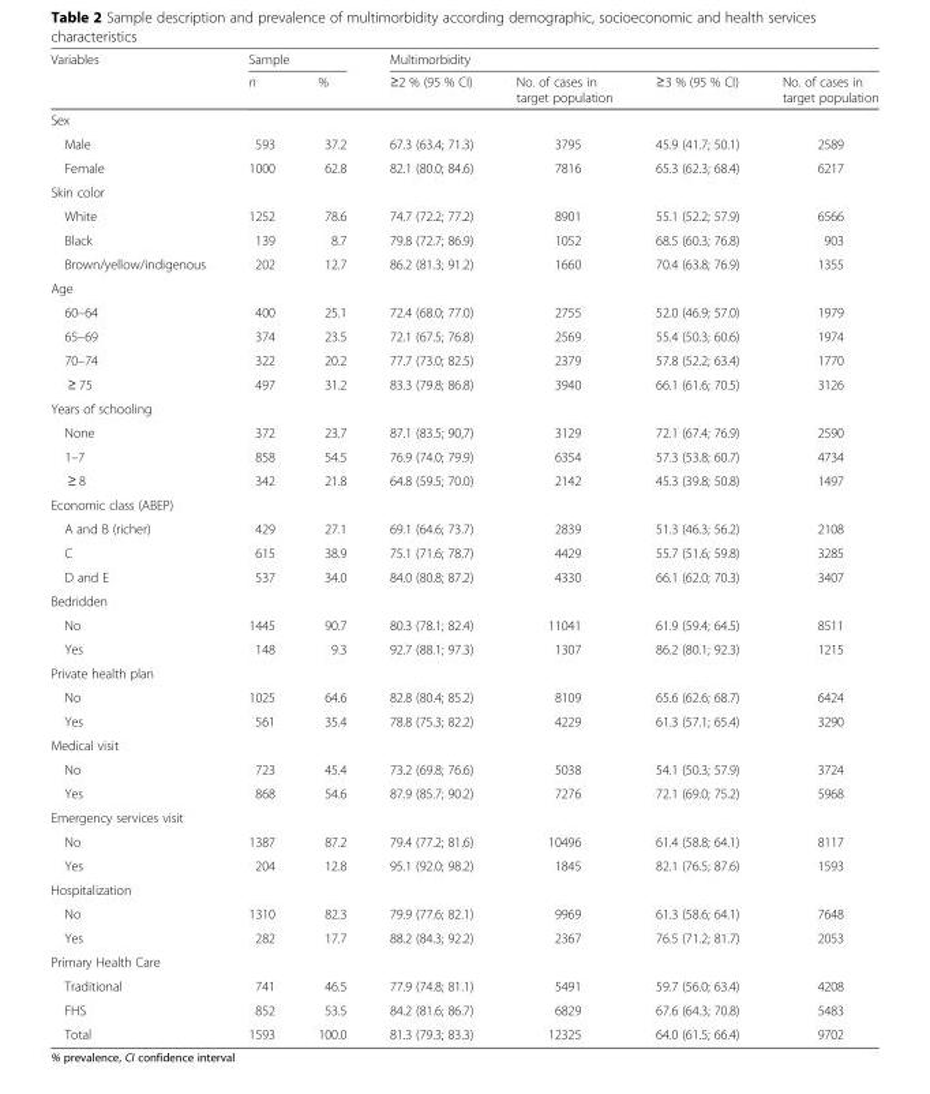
<table><thead><tr><td rowspan="2">Variables</td><td colspan="2">Sample</td><td colspan="4">Multimorbidity</td></tr><tr><td>n</td><td>%</td><td>≥2 % (95 % CI)</td><td>No. of cases in target population</td><td>≥3 % (95 % CI)</td><td>No. of cases in target population</td></tr></thead><tbody><tr><td colspan="7">Sex</td></tr><tr><td>Male</td><td>593</td><td>37.2</td><td>67.3 (63.4; 71.3)</td><td>3795</td><td>45.9 (41.7; 50.1)</td><td>2589</td></tr><tr><td>Female</td><td>1000</td><td>62.8</td><td>82.1 (80.0; 84.6)</td><td>7816</td><td>65.3 (62.3; 68.4)</td><td>6217</td></tr><tr><td colspan="7">Skin color</td></tr><tr><td>White</td><td>1252</td><td>78.6</td><td>74.7 (72.2; 77.2)</td><td>8901</td><td>55.1 (52.2; 57.9)</td><td>6566</td></tr><tr><td>Black</td><td>139</td><td>8.7</td><td>79.8 (72.7; 86.9)</td><td>1052</td><td>68.5 (60.3; 76.8)</td><td>903</td></tr><tr><td>Brown/yellow/indigenous</td><td>202</td><td>12.7</td><td>86.2 (81.3; 91.2)</td><td>1660</td><td>70.4 (63.8; 76.9)</td><td>1355</td></tr><tr><td colspan="7">Age</td></tr><tr><td>60–64</td><td>400</td><td>25.1</td><td>72.4 (68.0; 77.0)</td><td>2755</td><td>52.0 (46.9; 57.0)</td><td>1979</td></tr><tr><td>65–69</td><td>374</td><td>23.5</td><td>72.1 (67.5; 76.8)</td><td>2569</td><td>55.4 (50.3; 60.6)</td><td>1974</td></tr><tr><td>70–74</td><td>322</td><td>20.2</td><td>77.7 (73.0; 82.5)</td><td>2379</td><td>57.8 (52.2; 63.4)</td><td>1770</td></tr><tr><td>≥ 75</td><td>497</td><td>31.2</td><td>83.3 (79.8; 86.8)</td><td>3940</td><td>66.1 (61.6; 70.5)</td><td>3126</td></tr><tr><td colspan="7">Years of schooling</td></tr><tr><td>None</td><td>372</td><td>23.7</td><td>87.1 (83.5; 90,7)</td><td>3129</td><td>72.1 (67.4; 76.9)</td><td>2590</td></tr><tr><td>1–7</td><td>858</td><td>54.5</td><td>76.9 (74.0; 79.9)</td><td>6354</td><td>57.3 (53.8; 60.7)</td><td>4734</td></tr><tr><td>≥ 8</td><td>342</td><td>21.8</td><td>64.8 (59.5; 70.0)</td><td>2142</td><td>45.3 (39.8; 50.8)</td><td>1497</td></tr><tr><td colspan="7">Economic class (ABEP)</td></tr><tr><td>A and B (richer)</td><td>429</td><td>27.1</td><td>69.1 (64.6; 73.7)</td><td>2839</td><td>51.3 (46.3; 56.2)</td><td>2108</td></tr><tr><td>C</td><td>615</td><td>38.9</td><td>75.1 (71.6; 78.7)</td><td>4429</td><td>55.7 (51.6; 59.8)</td><td>3285</td></tr><tr><td>D and E</td><td>537</td><td>34.0</td><td>84.0 (80.8; 87.2)</td><td>4330</td><td>66.1 (62.0; 70.3)</td><td>3407</td></tr><tr><td colspan="7">Bedridden</td></tr><tr><td>No</td><td>1445</td><td>90.7</td><td>80.3 (78.1; 82.4)</td><td>11041</td><td>61.9 (59.4; 64.5)</td><td>8511</td></tr><tr><td>Yes</td><td>148</td><td>9.3</td><td>92.7 (88.1; 97.3)</td><td>1307</td><td>86.2 (80.1; 92.3)</td><td>1215</td></tr><tr><td colspan="7">Private health plan</td></tr><tr><td>No</td><td>1025</td><td>64.6</td><td>82.8 (80.4; 85.2)</td><td>8109</td><td>65.6 (62.6; 68.7)</td><td>6424</td></tr><tr><td>Yes</td><td>561</td><td>35.4</td><td>78.8 (75.3; 82.2)</td><td>4229</td><td>61.3 (57.1; 65.4)</td><td>3290</td></tr><tr><td colspan="7">Medical visit</td></tr><tr><td>No</td><td>723</td><td>45.4</td><td>73.2 (69.8; 76.6)</td><td>5038</td><td>54.1 (50.3; 57.9)</td><td>3724</td></tr><tr><td>Yes</td><td>868</td><td>54.6</td><td>87.9 (85.7; 90.2)</td><td>7276</td><td>72.1 (69.0; 75.2)</td><td>5968</td></tr><tr><td colspan="7">Emergency services visit</td></tr><tr><td>No</td><td>1387</td><td>87.2</td><td>79.4 (77.2; 81.6)</td><td>10496</td><td>61.4 (58.8; 64.1)</td><td>8117</td></tr><tr><td>Yes</td><td>204</td><td>12.8</td><td>95.1 (92.0; 98.2)</td><td>1845</td><td>82.1 (76.5; 87.6)</td><td>1593</td></tr><tr><td colspan="7">Hospitalization</td></tr><tr><td>No</td><td>1310</td><td>82.3</td><td>79.9 (77.6; 82.1)</td><td>9969</td><td>61.3 (58.6; 64.1)</td><td>7648</td></tr><tr><td>Yes</td><td>282</td><td>17.7</td><td>88.2 (84.3; 92.2)</td><td>2367</td><td>76.5 (71.2; 81.7)</td><td>2053</td></tr><tr><td colspan="7">Primary Health Care</td></tr><tr><td>Traditional</td><td>741</td><td>46.5</td><td>77.9 (74.8; 81.1)</td><td>5491</td><td>59.7 (56.0; 63.4)</td><td>4208</td></tr><tr><td>FHS</td><td>852</td><td>53.5</td><td>84.2 (81.6; 86.7)</td><td>6829</td><td>67.6 (64.3; 70.8)</td><td>5483</td></tr><tr><td>Total</td><td>1593</td><td>100.0</td><td>81.3 (79.3; 83.3)</td><td>12325</td><td>64.0 (61.5; 66.4)</td><td>9702</td></tr></tbody></table>